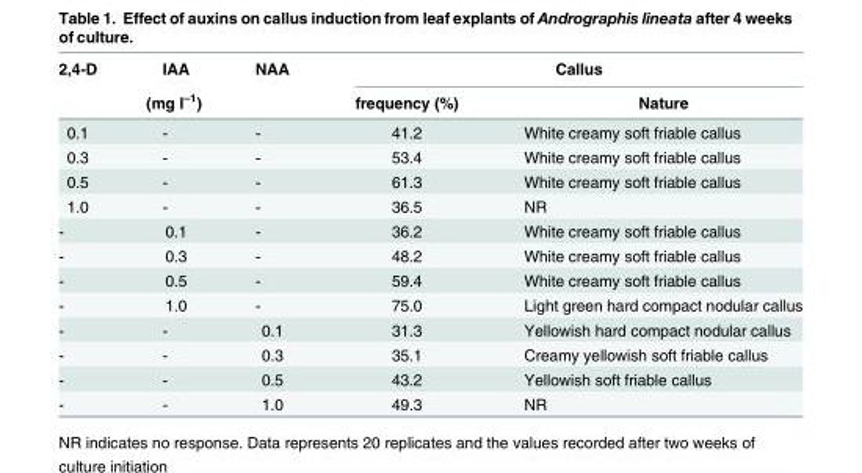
<table><thead><tr><td>2,4-D</td><td>IAA</td><td>NAA</td><td colspan="2">Callus</td></tr><tr><td colspan="3">(mg l<sup>–1</sup>)</td><td>frequency (%)</td><td>Nature</td></tr></thead><tbody><tr><td>0.1</td><td>-</td><td>-</td><td>41.2</td><td>White creamy soft friable callus</td></tr><tr><td>0.3</td><td>-</td><td>-</td><td>53.4</td><td>White creamy soft friable callus</td></tr><tr><td>0.5</td><td>-</td><td>-</td><td>61.3</td><td>White creamy soft friable callus</td></tr><tr><td>1.0</td><td>-</td><td>-</td><td>36.5</td><td>NR</td></tr><tr><td>-</td><td>0.1</td><td>-</td><td>36.2</td><td>White creamy soft friable callus</td></tr><tr><td>-</td><td>0.3</td><td>-</td><td>48.2</td><td>White creamy soft friable callus</td></tr><tr><td>-</td><td>0.5</td><td>-</td><td>59.4</td><td>White creamy soft friable callus</td></tr><tr><td>-</td><td>1.0</td><td>-</td><td>75.0</td><td>Light green hard compact nodular callus</td></tr><tr><td>-</td><td>-</td><td>0.1</td><td>31.3</td><td>Yellowish hard compact nodular callus</td></tr><tr><td>-</td><td>-</td><td>0.3</td><td>35.1</td><td>Creamy yellowish soft friable callus</td></tr><tr><td>-</td><td>-</td><td>0.5</td><td>43.2</td><td>Yellowish soft friable callus</td></tr><tr><td>-</td><td>-</td><td>1.0</td><td>49.3</td><td>NR</td></tr></tbody></table>